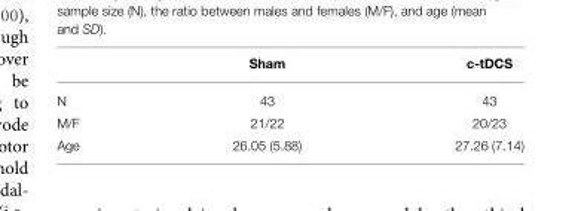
<table><thead><tr><td></td><td>Sham</td><td>c-tDCS</td></tr></thead><tbody><tr><td>N</td><td>43</td><td>43</td></tr><tr><td>M/F</td><td>21/22</td><td>20/23</td></tr><tr><td>Age</td><td>26.05 (5.88)</td><td>27.26 (7.14)</td></tr></tbody></table>